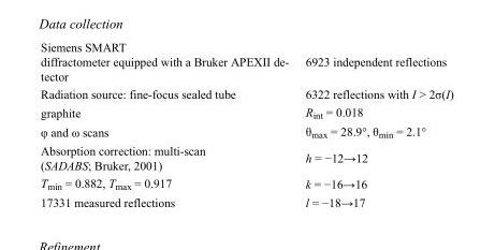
<table><tbody><tr><td>Siemens SMART diffractometer equipped with a Bruker APEXII de- tector</td><td>6923 independent reflections</td></tr><tr><td>Radiation source: fine-focus sealed tube</td><td>6322 reflections with I &gt; 2σ(I)</td></tr><tr><td>graphite</td><td>R<sub>int</sub> = 0.018</td></tr><tr><td>φ and ω scans</td><td>θ<sub>max</sub> = 28.9°, θ<sub>min</sub> = 2.1°</td></tr><tr><td>Absorption correction: multi-scan (SADABS; Bruker, 2001)</td><td>h = −12→12</td></tr><tr><td>T<sub>min</sub> = 0.882, T<sub>max</sub> = 0.917</td><td>k = −16→16</td></tr><tr><td>17331 measured reflections</td><td>l = −18→17</td></tr></tbody></table>